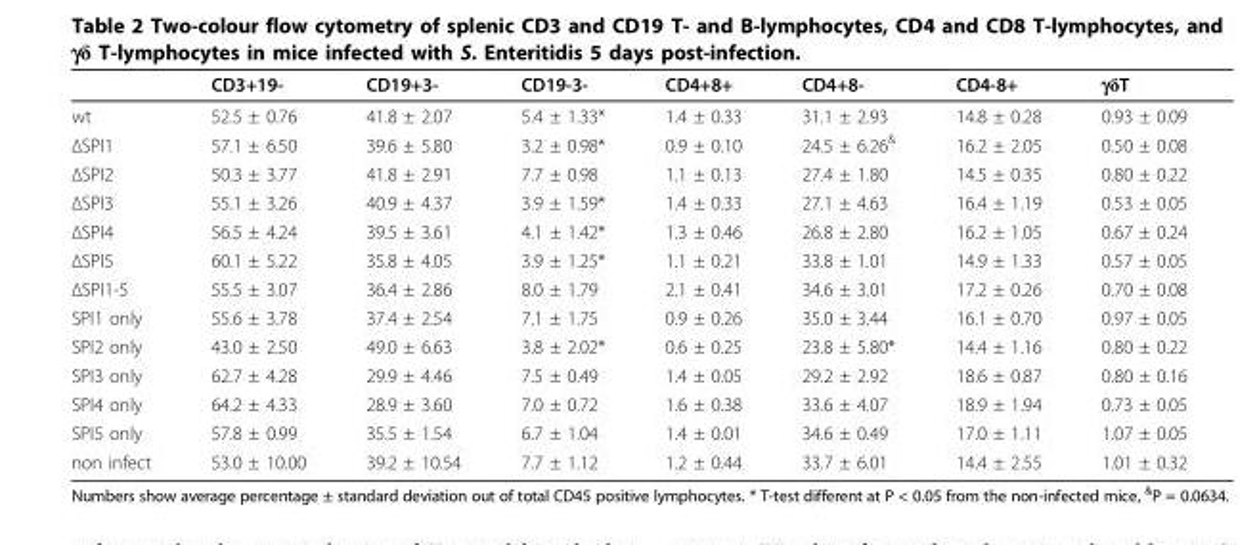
<table><thead><tr><td></td><td>CD3+19-</td><td>CD19+3-</td><td>CD19-3-</td><td>CD4+8+</td><td>CD4+8-</td><td>CD4-8+</td><td>γδT</td></tr></thead><tbody><tr><td>wt</td><td>52.5 ± 0.76</td><td>41.8 ± 2.07</td><td>5.4 ± 1.33*</td><td>1.4 ± 0.33</td><td>31.1 ± 2.93</td><td>14.8 ± 0.28</td><td>0.93 ± 0.09</td></tr><tr><td>ΔSPI1</td><td>57.1 ± 6.50</td><td>39.6 ± 5.80</td><td>3.2 ± 0.98*</td><td>0.9 ± 0.10</td><td>24.5 ± 6.26<sup>&amp;</sup></td><td>16.2 ± 2.05</td><td>0.50 ± 0.08</td></tr><tr><td>ΔSPI2</td><td>50.3 ± 3.77</td><td>41.8 ± 2.91</td><td>7.7 ± 0.98</td><td>1.1 ± 0.13</td><td>27.4 ± 1.80</td><td>14.5 ± 0.35</td><td>0.80 ± 0.22</td></tr><tr><td>ΔSPI3</td><td>55.1 ± 3.26</td><td>40.9 ± 4.37</td><td>3.9 ± 1.59*</td><td>1.4 ± 0.33</td><td>27.1 ± 4.63</td><td>16.4 ± 1.19</td><td>0.53 ± 0.05</td></tr><tr><td>ΔSPI4</td><td>56.5 ± 4.24</td><td>39.5 ± 3.61</td><td>4.1 ± 1.42*</td><td>1.3 ± 0.46</td><td>26.8 ± 2.80</td><td>16.2 ± 1.05</td><td>0.67 ± 0.24</td></tr><tr><td>ΔSPI5</td><td>60.1 ± 5.22</td><td>35.8 ± 4.05</td><td>3.9 ± 1.25*</td><td>1.1 ± 0.21</td><td>33.8 ± 1.01</td><td>14.9 ± 1.33</td><td>0.57 ± 0.05</td></tr><tr><td>ΔSPI1-5</td><td>55.5 ± 3.07</td><td>36.4 ± 2.86</td><td>8.0 ± 1.79</td><td>2.1 ± 0.41</td><td>34.6 ± 3.01</td><td>17.2 ± 0.26</td><td>0.70 ± 0.08</td></tr><tr><td>SPI1 only</td><td>55.6 ± 3.78</td><td>37.4 ± 2.54</td><td>7.1 ± 1.75</td><td>0.9 ± 0.26</td><td>35.0 ± 3.44</td><td>16.1 ± 0.70</td><td>0.97 ± 0.05</td></tr><tr><td>SPI2 only</td><td>43.0 ± 2.50</td><td>49.0 ± 6.63</td><td>3.8 ± 2.02*</td><td>0.6 ± 0.25</td><td>23.8 ± 5.80*</td><td>14.4 ± 1.16</td><td>0.80 ± 0.22</td></tr><tr><td>SPI3 only</td><td>62.7 ± 4.28</td><td>29.9 ± 4.46</td><td>7.5 ± 0.49</td><td>1.4 ± 0.05</td><td>29.2 ± 2.92</td><td>18.6 ± 0.87</td><td>0.80 ± 0.16</td></tr><tr><td>SPI4 only</td><td>64.2 ± 4.33</td><td>28.9 ± 3.60</td><td>7.0 ± 0.72</td><td>1.6 ± 0.38</td><td>33.6 ± 4.07</td><td>18.9 ± 1.94</td><td>0.73 ± 0.05</td></tr><tr><td>SPI5 only</td><td>57.8 ± 0.99</td><td>35.5 ± 1.54</td><td>6.7 ± 1.04</td><td>1.4 ± 0.01</td><td>34.6 ± 0.49</td><td>17.0 ± 1.11</td><td>1.07 ± 0.05</td></tr><tr><td>non infect</td><td>53.0 ± 10.00</td><td>39.2 ± 10.54</td><td>7.7 ± 1.12</td><td>1.2 ± 0.44</td><td>33.7 ± 6.01</td><td>14.4 ± 2.55</td><td>1.01 ± 0.32</td></tr></tbody></table>